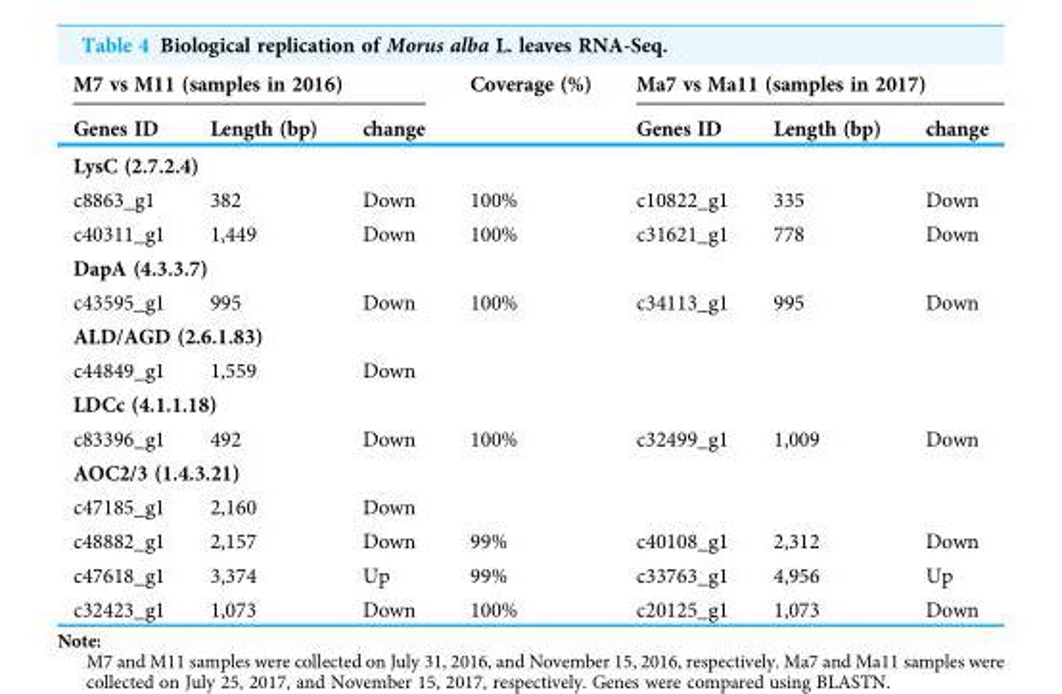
<table><thead><tr><td colspan="3">M7 vs M11 (samples in 2016)</td><td rowspan="2">Coverage (%)</td><td colspan="3">Ma7 vs Ma11 (samples in 2017)</td></tr><tr><td>Genes ID</td><td>Length (bp)</td><td>change</td><td>Genes ID</td><td>Length (bp)</td><td>change</td></tr></thead><tbody><tr><td colspan="7">LysC (2.7.2.4)</td></tr><tr><td>c8863_g1</td><td>382</td><td>Down</td><td>100%</td><td>c10822_g1</td><td>335</td><td>Down</td></tr><tr><td>c40311_g1</td><td>1,449</td><td>Down</td><td>100%</td><td>c31621_g1</td><td>778</td><td>Down</td></tr><tr><td colspan="7">DapA (4.3.3.7)</td></tr><tr><td>c43595_g1</td><td>995</td><td>Down</td><td>100%</td><td>c34113_g1</td><td>995</td><td>Down</td></tr><tr><td colspan="7">ALD/AGD (2.6.1.83)</td></tr><tr><td>c44849_g1</td><td>1,559</td><td>Down</td><td></td><td></td><td></td><td></td></tr><tr><td colspan="7">LDCc (4.1.1.18)</td></tr><tr><td>c83396_g1</td><td>492</td><td>Down</td><td>100%</td><td>c32499_g1</td><td>1,009</td><td>Down</td></tr><tr><td colspan="7">AOC2/3 (1.4.3.21)</td></tr><tr><td>c47185_g1</td><td>2,160</td><td>Down</td><td></td><td></td><td></td><td></td></tr><tr><td>c48882_g1</td><td>2,157</td><td>Down</td><td>99%</td><td>c40108_g1</td><td>2,312</td><td>Down</td></tr><tr><td>c47618_g1</td><td>3,374</td><td>Up</td><td>99%</td><td>c33763_g1</td><td>4,956</td><td>Up</td></tr><tr><td>c32423_g1</td><td>1,073</td><td>Down</td><td>100%</td><td>c20125_g1</td><td>1,073</td><td>Down</td></tr></tbody></table>